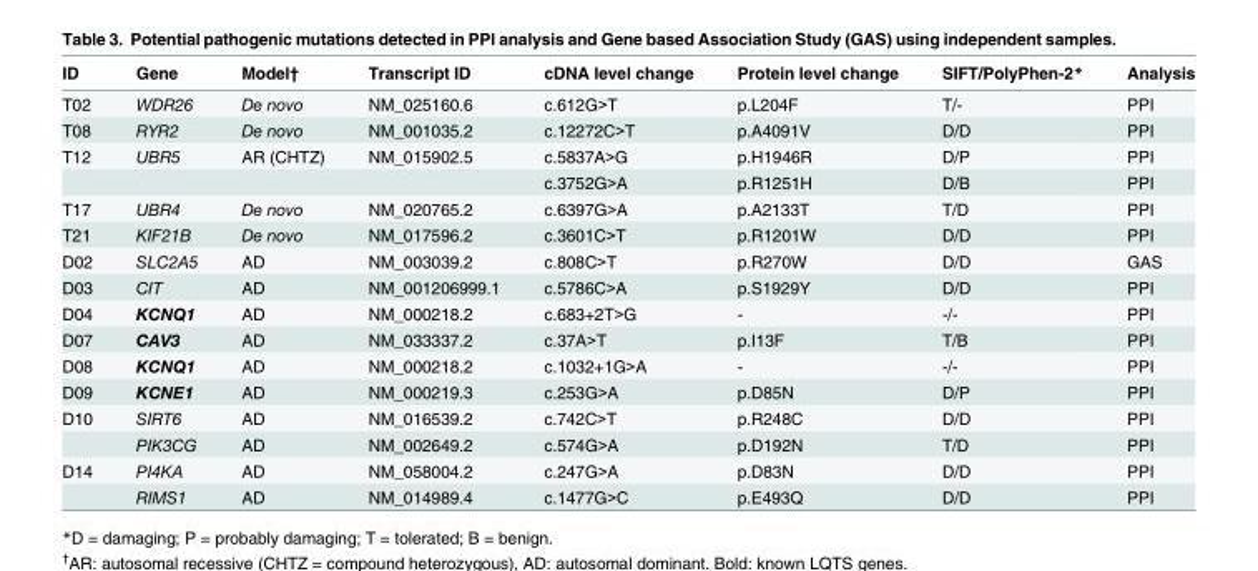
<table><thead><tr><td>ID</td><td>Gene</td><td>Model†</td><td>Transcript ID</td><td>cDNA level change</td><td>Protein level change</td><td>SIFT/PolyPhen-2*</td><td>Analysis</td></tr></thead><tbody><tr><td>T02</td><td>WDR26</td><td>De novo</td><td>NM_025160.6</td><td>c.612G&gt;T</td><td>p.L204F</td><td>T/-</td><td>PPI</td></tr><tr><td>T08</td><td>RYR2</td><td>De novo</td><td>NM_001035.2</td><td>c.12272C&gt;T</td><td>p.A4091V</td><td>D/D</td><td>PPI</td></tr><tr><td rowspan="2">T12</td><td>UBR5</td><td>AR (CHTZ)</td><td>NM_015902.5</td><td>c.5837A&gt;G</td><td>p.H1946R</td><td>D/P</td><td>PPI</td></tr><tr><td></td><td></td><td></td><td>c.3752G&gt;A</td><td>p.R1251H</td><td>D/B</td><td>PPI</td></tr><tr><td>T17</td><td>UBR4</td><td>De novo</td><td>NM_020765.2</td><td>c.6397G&gt;A</td><td>p.A2133T</td><td>T/D</td><td>PPI</td></tr><tr><td>T21</td><td>KIF21B</td><td>De novo</td><td>NM_017596.2</td><td>c.3601C&gt;T</td><td>p.R1201W</td><td>D/D</td><td>PPI</td></tr><tr><td>D02</td><td>SLC2A5</td><td>AD</td><td>NM_003039.2</td><td>c.808C&gt;T</td><td>p.R270W</td><td>D/D</td><td>GAS</td></tr><tr><td>D03</td><td>CIT</td><td>AD</td><td>NM_001206999.1</td><td>c.5786C&gt;A</td><td>p.S1929Y</td><td>D/D</td><td>PPI</td></tr><tr><td>D04</td><td>KCNQ1</td><td>AD</td><td>NM_000218.2</td><td>c.683+2T&gt;G</td><td>-</td><td>-/-</td><td>PPI</td></tr><tr><td>D07</td><td>CAV3</td><td>AD</td><td>NM_033337.2</td><td>c.37A&gt;T</td><td>p.I13F</td><td>T/B</td><td>PPI</td></tr><tr><td>D08</td><td>KCNQ1</td><td>AD</td><td>NM_000218.2</td><td>c.1032+1G&gt;A</td><td>-</td><td>-/-</td><td>PPI</td></tr><tr><td>D09</td><td>KCNE1</td><td>AD</td><td>NM_000219.3</td><td>c.253G&gt;A</td><td>p.D85N</td><td>D/P</td><td>PPI</td></tr><tr><td rowspan="2">D10</td><td>SIRT6</td><td>AD</td><td>NM_016539.2</td><td>c.742C&gt;T</td><td>p.R248C</td><td>D/D</td><td>PPI</td></tr><tr><td>PIK3CG</td><td>AD</td><td>NM_002649.2</td><td>c.574G&gt;A</td><td>p.D192N</td><td>T/D</td><td>PPI</td></tr><tr><td rowspan="2">D14</td><td>PI4KA</td><td>AD</td><td>NM_058004.2</td><td>c.247G&gt;A</td><td>p.D83N</td><td>D/D</td><td>PPI</td></tr><tr><td>RIMS1</td><td>AD</td><td>NM_014989.4</td><td>c.1477G&gt;C</td><td>p.E493Q</td><td>D/D</td><td>PPI</td></tr></tbody></table>